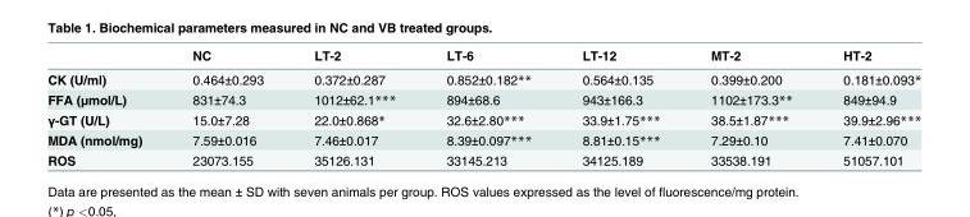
<table><thead><tr><td></td><td>NC</td><td>LT-2</td><td>LT-6</td><td>LT-12</td><td>MT-2</td><td>HT-2</td></tr></thead><tbody><tr><td>CK (U/ml)</td><td>0.464±0.293</td><td>0.372±0.287</td><td>0.852±0.182**</td><td>0.564±0.135</td><td>0.399±0.200</td><td>0.181±0.093*</td></tr><tr><td>FFA (μmol/L)</td><td>831±74.3</td><td>1012±62.1***</td><td>894±68.6</td><td>943±166.3</td><td>1102±173.3**</td><td>849±94.9</td></tr><tr><td>γ-GT (U/L)</td><td>15.0±7.28</td><td>22.0±0.868*</td><td>32.6±2.80***</td><td>33.9±1.75***</td><td>38.5±1.87***</td><td>39.9±2.96***</td></tr><tr><td>MDA (nmol/mg)</td><td>7.59±0.016</td><td>7.46±0.017</td><td>8.39±0.097***</td><td>8.81±0.15***</td><td>7.29±0.10</td><td>7.41±0.070</td></tr><tr><td>ROS</td><td>23073.155</td><td>35126.131</td><td>33145.213</td><td>34125.189</td><td>33538.191</td><td>51057.101</td></tr></tbody></table>